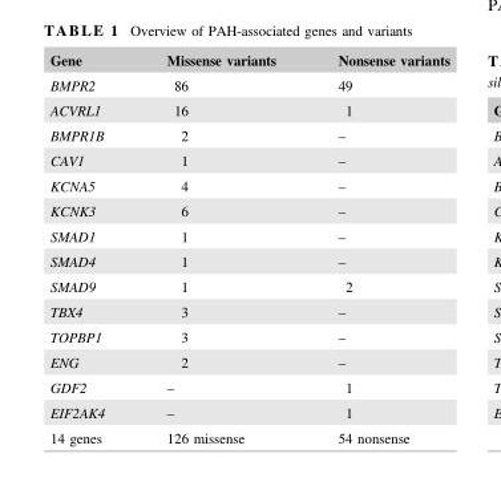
<table><thead><tr><td>Gene</td><td>Missense variants</td><td>Nonsense variants</td></tr></thead><tbody><tr><td>BMPR2</td><td>86</td><td>49</td></tr><tr><td>ACVRL1</td><td>16</td><td>1</td></tr><tr><td>BMPR1B</td><td>2</td><td>–</td></tr><tr><td>CAV1</td><td>1</td><td>–</td></tr><tr><td>KCNA5</td><td>4</td><td>–</td></tr><tr><td>KCNK3</td><td>6</td><td>–</td></tr><tr><td>SMAD1</td><td>1</td><td>–</td></tr><tr><td>SMAD4</td><td>1</td><td>–</td></tr><tr><td>SMAD9</td><td>1</td><td>2</td></tr><tr><td>TBX4</td><td>3</td><td>–</td></tr><tr><td>TOPBP1</td><td>3</td><td>–</td></tr><tr><td>ENG</td><td>2</td><td>–</td></tr><tr><td>GDF2</td><td>–</td><td>1</td></tr><tr><td>EIF2AK4</td><td>–</td><td>1</td></tr><tr><td>14 genes</td><td>126 missense</td><td>54 nonsense</td></tr></tbody></table>